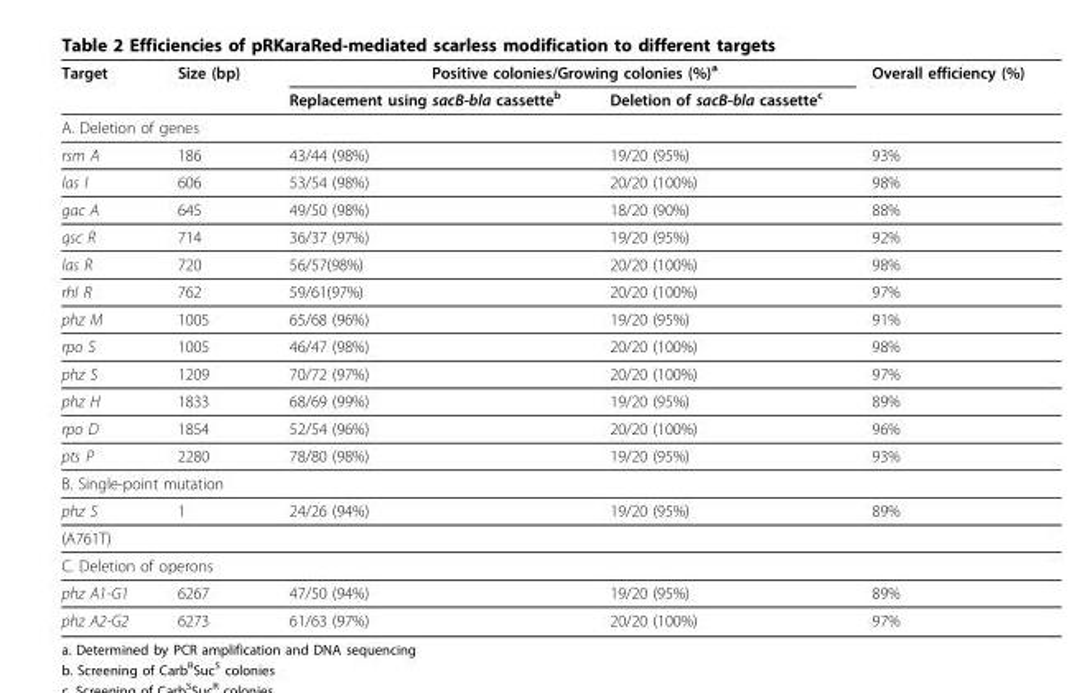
<table><thead><tr><td rowspan="2">Target</td><td rowspan="2">Size (bp)</td><td colspan="2">Positive colonies/Growing colonies (%)<sup>a</sup></td><td rowspan="2">Overall efficiency (%)</td></tr><tr><td>Replacement using sacB-bla cassette<sup>b</sup></td><td>Deletion of sacB-bla cassette<sup>c</sup></td></tr></thead><tbody><tr><td colspan="5">A. Deletion of genes</td></tr><tr><td>rsm A</td><td>186</td><td>43/44 (98%)</td><td>19/20 (95%)</td><td>93%</td></tr><tr><td>las I</td><td>606</td><td>53/54 (98%)</td><td>20/20 (100%)</td><td>98%</td></tr><tr><td>gac A</td><td>645</td><td>49/50 (98%)</td><td>18/20 (90%)</td><td>88%</td></tr><tr><td>qsc R</td><td>714</td><td>36/37 (97%)</td><td>19/20 (95%)</td><td>92%</td></tr><tr><td>las R</td><td>720</td><td>56/57(98%)</td><td>20/20 (100%)</td><td>98%</td></tr><tr><td>rhl R</td><td>762</td><td>59/61(97%)</td><td>20/20 (100%)</td><td>97%</td></tr><tr><td>phz M</td><td>1005</td><td>65/68 (96%)</td><td>19/20 (95%)</td><td>91%</td></tr><tr><td>rpo S</td><td>1005</td><td>46/47 (98%)</td><td>20/20 (100%)</td><td>98%</td></tr><tr><td>phz S</td><td>1209</td><td>70/72 (97%)</td><td>20/20 (100%)</td><td>97%</td></tr><tr><td>phz H</td><td>1833</td><td>68/69 (99%)</td><td>19/20 (95%)</td><td>89%</td></tr><tr><td>rpo D</td><td>1854</td><td>52/54 (96%)</td><td>20/20 (100%)</td><td>96%</td></tr><tr><td>pts P</td><td>2280</td><td>78/80 (98%)</td><td>19/20 (95%)</td><td>93%</td></tr><tr><td colspan="5">B. Single-point mutation</td></tr><tr><td>phz S</td><td>1</td><td>24/26 (94%)</td><td>19/20 (95%)</td><td>89%</td></tr><tr><td colspan="5">(A761T)</td></tr><tr><td colspan="5">C. Deletion of operons</td></tr><tr><td>phz A1-G1</td><td>6267</td><td>47/50 (94%)</td><td>19/20 (95%)</td><td>89%</td></tr><tr><td>phz A2-G2</td><td>6273</td><td>61/63 (97%)</td><td>20/20 (100%)</td><td>97%</td></tr></tbody></table>